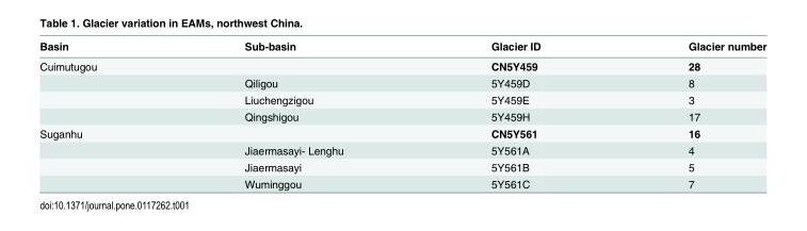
<table><thead><tr><td>Basin</td><td>Sub-basin</td><td>Glacier ID</td><td>Glacier number</td></tr></thead><tbody><tr><td rowspan="4">Cuimutugou</td><td></td><td>CN5Y459</td><td>28</td></tr><tr><td>Qiligou</td><td>5Y459D</td><td>8</td></tr><tr><td>Liuchengzigou</td><td>5Y459E</td><td>3</td></tr><tr><td>Qingshigou</td><td>5Y459H</td><td>17</td></tr><tr><td rowspan="4">Suganhu</td><td></td><td>CN5Y561</td><td>16</td></tr><tr><td>Jiaermasayi- Lenghu</td><td>5Y561A</td><td>4</td></tr><tr><td>Jiaermasayi</td><td>5Y561B</td><td>5</td></tr><tr><td>Wuminggou</td><td>5Y561C</td><td>7</td></tr></tbody></table>